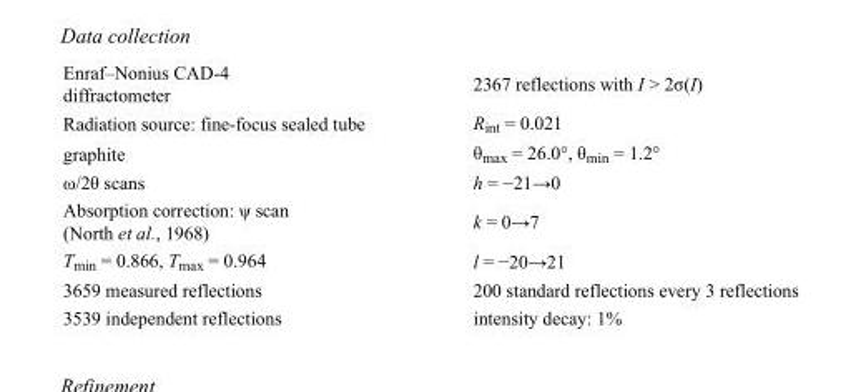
<table><tbody><tr><td>Enraf–Nonius CAD-4 diffractometer</td><td>2367 reflections with I &gt; 2σ(I)</td></tr><tr><td>Radiation source: fine-focus sealed tube</td><td>R<sub>int</sub> = 0.021</td></tr><tr><td>graphite</td><td>θ<sub>max</sub> = 26.0°, θ<sub>min</sub> = 1.2°</td></tr><tr><td>ω/2θ scans</td><td>h = −21→0</td></tr><tr><td>Absorption correction: ψ scan (North et al., 1968)</td><td>k = 0→7</td></tr><tr><td>T<sub>min</sub> = 0.866, T<sub>max</sub> = 0.964</td><td>l = −20→21</td></tr><tr><td>3659 measured reflections</td><td>200 standard reflections every 3 reflections</td></tr><tr><td>3539 independent reflections</td><td>intensity decay: 1%</td></tr></tbody></table>